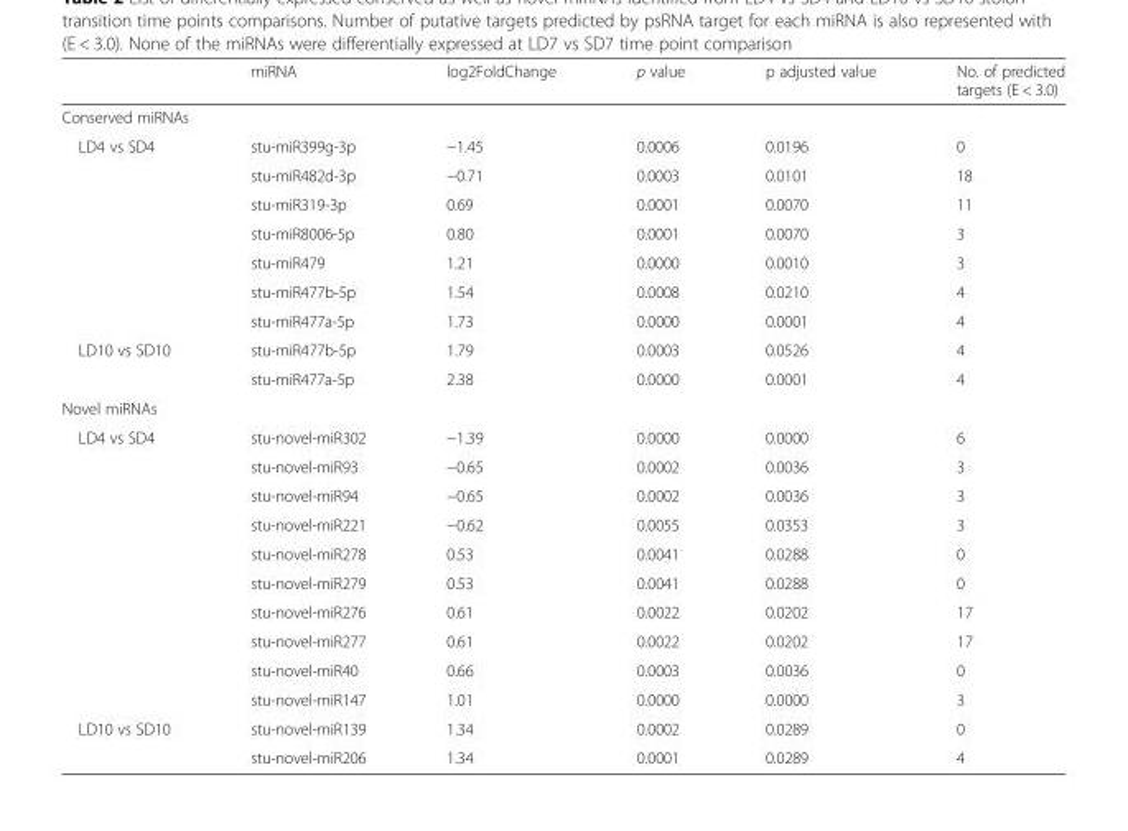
<table><thead><tr><td></td><td>miRNA</td><td>log2FoldChange</td><td>p value</td><td>p adjusted value</td><td>No. of predicted targets (E &lt; 3.0)</td></tr></thead><tbody><tr><td colspan="6">Conserved miRNAs</td></tr><tr><td rowspan="7">LD4 vs SD4</td><td>stu-miR399g-3p</td><td>−1.45</td><td>0.0006</td><td>0.0196</td><td>0</td></tr><tr><td>stu-miR482d-3p</td><td>−0.71</td><td>0.0003</td><td>0.0101</td><td>18</td></tr><tr><td>stu-miR319-3p</td><td>0.69</td><td>0.0001</td><td>0.0070</td><td>11</td></tr><tr><td>stu-miR8006-5p</td><td>0.80</td><td>0.0001</td><td>0.0070</td><td>3</td></tr><tr><td>stu-miR479</td><td>1.21</td><td>0.0000</td><td>0.0010</td><td>3</td></tr><tr><td>stu-miR477b-5p</td><td>1.54</td><td>0.0008</td><td>0.0210</td><td>4</td></tr><tr><td>stu-miR477a-5p</td><td>1.73</td><td>0.0000</td><td>0.0001</td><td>4</td></tr><tr><td rowspan="2">LD10 vs SD10</td><td>stu-miR477b-5p</td><td>1.79</td><td>0.0003</td><td>0.0526</td><td>4</td></tr><tr><td>stu-miR477a-5p</td><td>2.38</td><td>0.0000</td><td>0.0001</td><td>4</td></tr><tr><td colspan="6">Novel miRNAs</td></tr><tr><td rowspan="10">LD4 vs SD4</td><td>stu-novel-miR302</td><td>−1.39</td><td>0.0000</td><td>0.0000</td><td>6</td></tr><tr><td>stu-novel-miR93</td><td>−0.65</td><td>0.0002</td><td>0.0036</td><td>3</td></tr><tr><td>stu-novel-miR94</td><td>−0.65</td><td>0.0002</td><td>0.0036</td><td>3</td></tr><tr><td>stu-novel-miR221</td><td>−0.62</td><td>0.0055</td><td>0.0353</td><td>3</td></tr><tr><td>stu-novel-miR278</td><td>0.53</td><td>0.0041</td><td>0.0288</td><td>0</td></tr><tr><td>stu-novel-miR279</td><td>0.53</td><td>0.0041</td><td>0.0288</td><td>0</td></tr><tr><td>stu-novel-miR276</td><td>0.61</td><td>0.0022</td><td>0.0202</td><td>17</td></tr><tr><td>stu-novel-miR277</td><td>0.61</td><td>0.0022</td><td>0.0202</td><td>17</td></tr><tr><td>stu-novel-miR40</td><td>0.66</td><td>0.0003</td><td>0.0036</td><td>0</td></tr><tr><td>stu-novel-miR147</td><td>1.01</td><td>0.0000</td><td>0.0000</td><td>3</td></tr><tr><td rowspan="2">LD10 vs SD10</td><td>stu-novel-miR139</td><td>1.34</td><td>0.0002</td><td>0.0289</td><td>0</td></tr><tr><td>stu-novel-miR206</td><td>1.34</td><td>0.0001</td><td>0.0289</td><td>4</td></tr></tbody></table>